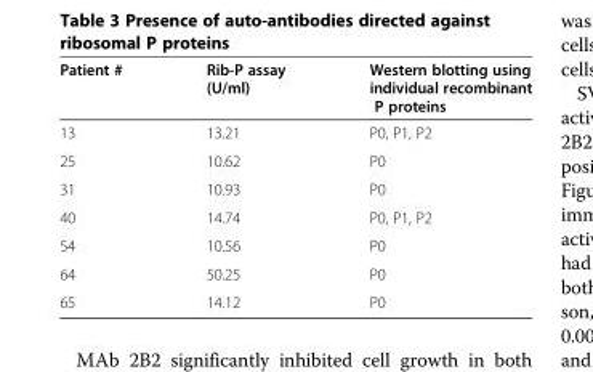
<table><thead><tr><td>Patient #</td><td>Rib-P assay (U/ml)</td><td>Western blotting using individual recombinant P proteins</td></tr></thead><tbody><tr><td>13</td><td>13.21</td><td>P0, P1, P2</td></tr><tr><td>25</td><td>10.62</td><td>P0</td></tr><tr><td>31</td><td>10.93</td><td>P0</td></tr><tr><td>40</td><td>14.74</td><td>P0, P1, P2</td></tr><tr><td>54</td><td>10.56</td><td>P0</td></tr><tr><td>64</td><td>50.25</td><td>P0</td></tr><tr><td>65</td><td>14.12</td><td>P0</td></tr></tbody></table>